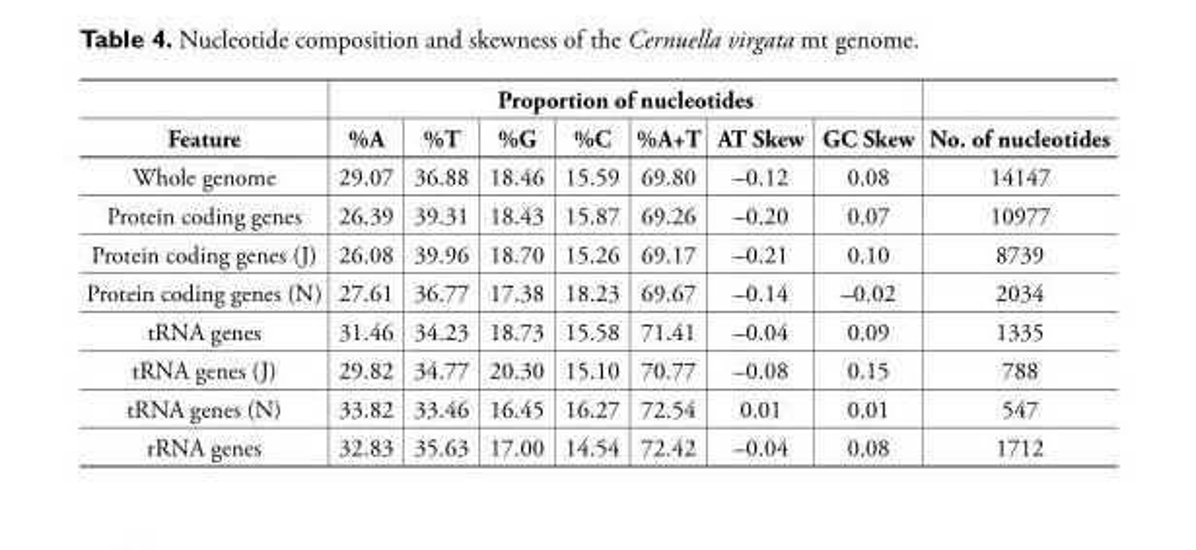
<table><thead><tr><td rowspan="2">Feature</td><td colspan="7">Proportion of nucleotides</td><td rowspan="2">No. of nucleotides</td></tr><tr><td>%A</td><td>%T</td><td>%G</td><td>%C</td><td>%A+T</td><td>AT Skew</td><td>GC Skew</td></tr></thead><tbody><tr><td>Whole genome</td><td>29.07</td><td>36.88</td><td>18.46</td><td>15.59</td><td>69.80</td><td>–0.12</td><td>0.08</td><td>14147</td></tr><tr><td>Protein coding genes</td><td>26.39</td><td>39.31</td><td>18.43</td><td>15.87</td><td>69.26</td><td>–0.20</td><td>0.07</td><td>10977</td></tr><tr><td>Protein coding genes (J)</td><td>26.08</td><td>39.96</td><td>18.70</td><td>15.26</td><td>69.17</td><td>–0.21</td><td>0.10</td><td>8739</td></tr><tr><td>Protein coding genes (N)</td><td>27.61</td><td>36.77</td><td>17.38</td><td>18.23</td><td>69.67</td><td>–0.14</td><td>–0.02</td><td>2034</td></tr><tr><td>tRNA genes</td><td>31.46</td><td>34.23</td><td>18.73</td><td>15.58</td><td>71.41</td><td>–0.04</td><td>0.09</td><td>1335</td></tr><tr><td>tRNA genes (J)</td><td>29.82</td><td>34.77</td><td>20.30</td><td>15.10</td><td>70.77</td><td>–0.08</td><td>0.15</td><td>788</td></tr><tr><td>tRNA genes (N)</td><td>33.82</td><td>33.46</td><td>16.45</td><td>16.27</td><td>72.54</td><td>0.01</td><td>0.01</td><td>547</td></tr><tr><td>rRNA genes</td><td>32.83</td><td>35.63</td><td>17.00</td><td>14.54</td><td>72.42</td><td>–0.04</td><td>0.08</td><td>1712</td></tr></tbody></table>